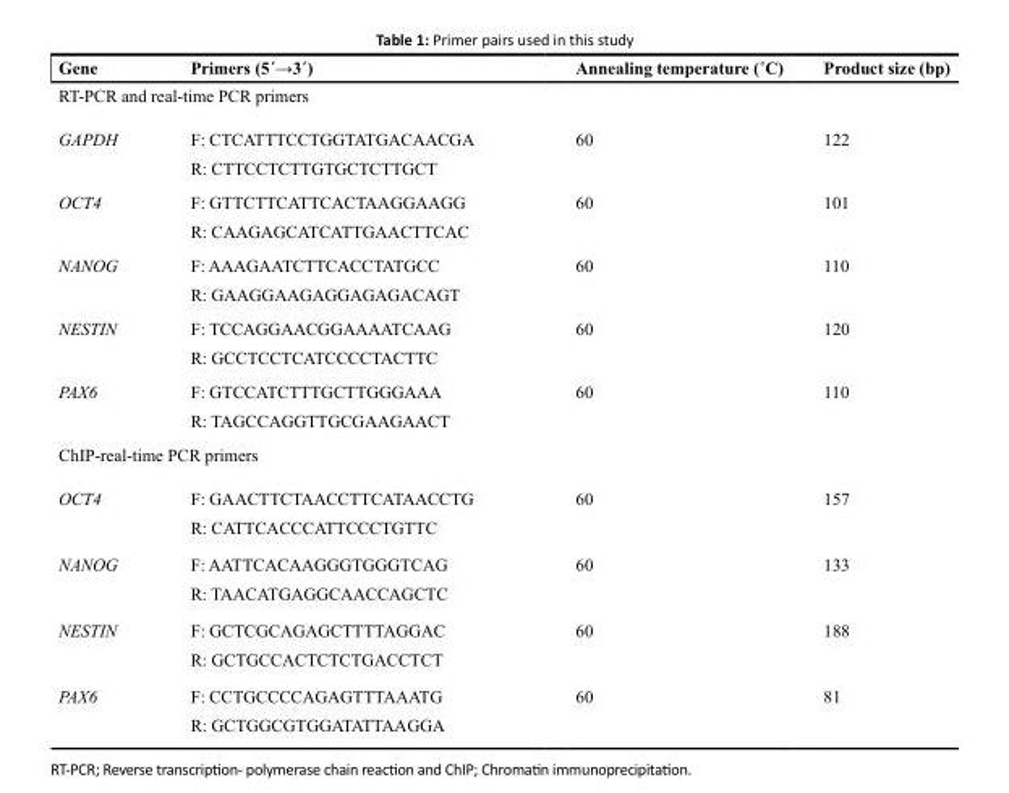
<table><thead><tr><td>Gene</td><td>Primers (5´→3´)</td><td>Annealing temperature (˚C)</td><td>Product size (bp)</td></tr></thead><tbody><tr><td colspan="4">RT-PCR and real-time PCR primers</td></tr><tr><td rowspan="2">GAPDH</td><td>F: CTCATTTCCTGGTATGACAACGA</td><td rowspan="2">60</td><td rowspan="2">122</td></tr><tr><td>R: CTTCCTCTTGTGCTCTTGCT</td></tr><tr><td rowspan="2">OCT4</td><td>F: GTTCTTCATTCACTAAGGAAGG</td><td rowspan="2">60</td><td rowspan="2">101</td></tr><tr><td>R: CAAGAGCATCATTGAACTTCAC</td></tr><tr><td rowspan="2">NANOG</td><td>F: AAAGAATCTTCACCTATGCC</td><td rowspan="2">60</td><td rowspan="2">110</td></tr><tr><td>R: GAAGGAAGAGGAGAGACAGT</td></tr><tr><td rowspan="2">NESTIN</td><td>F: TCCAGGAACGGAAAATCAAG</td><td rowspan="2">60</td><td rowspan="2">120</td></tr><tr><td>R: GCCTCCTCATCCCCTACTTC</td></tr><tr><td rowspan="2">PAX6</td><td>F: GTCCATCTTTGCTTGGGAAA</td><td rowspan="2">60</td><td rowspan="2">110</td></tr><tr><td>R: TAGCCAGGTTGCGAAGAACT</td></tr><tr><td colspan="4">ChIP-real-time PCR primers</td></tr><tr><td rowspan="2">OCT4</td><td>F: GAACTTCTAACCTTCATAACCTG</td><td rowspan="2">60</td><td rowspan="2">157</td></tr><tr><td>R: CATTCACCCATTCCCTGTTC</td></tr><tr><td rowspan="2">NANOG</td><td>F: AATTCACAAGGGTGGGTCAG</td><td rowspan="2">60</td><td rowspan="2">133</td></tr><tr><td>R: TAACATGAGGCAACCAGCTC</td></tr><tr><td rowspan="2">NESTIN</td><td>F: GCTCGCAGAGCTTTTAGGAC</td><td rowspan="2">60</td><td rowspan="2">188</td></tr><tr><td>R: GCTGCCACTCTCTGACCTCT</td></tr><tr><td rowspan="2">PAX6</td><td>F: CCTGCCCCAGAGTTTAAATG</td><td rowspan="2">60</td><td rowspan="2">81</td></tr><tr><td>R: GCTGGCGTGGATATTAAGGA</td></tr></tbody></table>